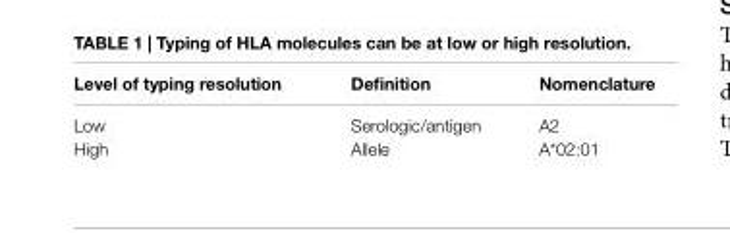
<table><thead><tr><td>Level of typing resolution</td><td>Definition</td><td>Nomenclature</td></tr></thead><tbody><tr><td>Low</td><td>Serologic/antigen</td><td>A2</td></tr><tr><td>High</td><td>Allele</td><td>A*02:01</td></tr></tbody></table>